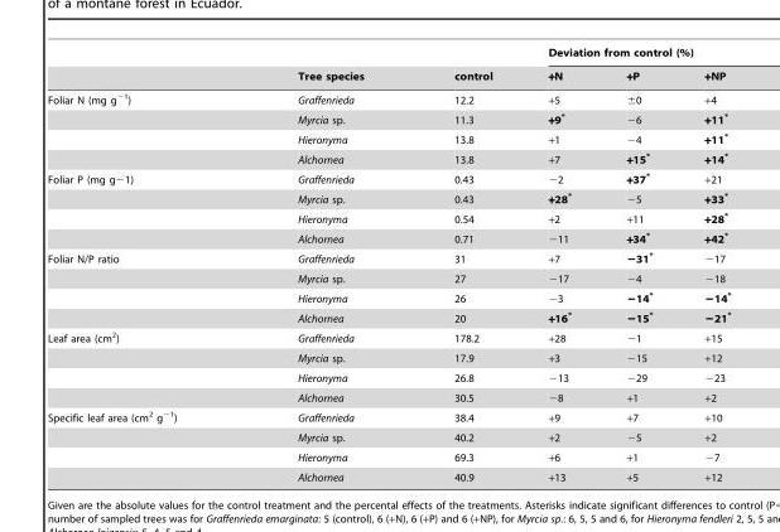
<table><thead><tr><td rowspan="2"></td><td rowspan="2">Tree species</td><td rowspan="2">control</td><td colspan="3">Deviation from control (%)</td></tr><tr><td>+N</td><td>+P</td><td>+NP</td></tr></thead><tbody><tr><td rowspan="4">Foliar N (mg g<sup>−1</sup>)</td><td>Graffenrieda</td><td>12.2</td><td>+5</td><td>±0</td><td>+4</td></tr><tr><td>Myrcia sp.</td><td>11.3</td><td>+9*</td><td>−6</td><td>+11*</td></tr><tr><td>Hieronyma</td><td>13.8</td><td>+1</td><td>−4</td><td>+11*</td></tr><tr><td>Alchornea</td><td>13.8</td><td>+7</td><td>+15*</td><td>+14*</td></tr><tr><td rowspan="4">Foliar P (mg g−1)</td><td>Graffenrieda</td><td>0.43</td><td>−2</td><td>+37*</td><td>+21</td></tr><tr><td>Myrcia sp.</td><td>0.43</td><td>+28*</td><td>−5</td><td>+33*</td></tr><tr><td>Hieronyma</td><td>0.54</td><td>+2</td><td>+11</td><td>+28*</td></tr><tr><td>Alchornea</td><td>0.71</td><td>−11</td><td>+34*</td><td>+42*</td></tr><tr><td rowspan="4">Foliar N/P ratio</td><td>Graffenrieda</td><td>31</td><td>+7</td><td>−31*</td><td>−17</td></tr><tr><td>Myrcia sp.</td><td>27</td><td>−17</td><td>−4</td><td>−18</td></tr><tr><td>Hieronyma</td><td>26</td><td>−3</td><td>−14*</td><td>−14*</td></tr><tr><td>Alchornea</td><td>20</td><td>+16*</td><td>−15*</td><td>−21*</td></tr><tr><td rowspan="4">Leaf area (cm<sup>2</sup>)</td><td>Graffenrieda</td><td>178.2</td><td>+28</td><td>−1</td><td>+15</td></tr><tr><td>Myrcia sp.</td><td>17.9</td><td>+3</td><td>−15</td><td>+12</td></tr><tr><td>Hieronyma</td><td>26.8</td><td>−13</td><td>−29</td><td>−23</td></tr><tr><td>Alchornea</td><td>30.5</td><td>−8</td><td>+1</td><td>+2</td></tr><tr><td rowspan="4">Specific leaf area (cm<sup>2</sup> g<sup>−1</sup>)</td><td>Graffenrieda</td><td>38.4</td><td>+9</td><td>+7</td><td>+10</td></tr><tr><td>Myrcia sp.</td><td>40.2</td><td>+2</td><td>−5</td><td>+2</td></tr><tr><td>Hieronyma</td><td>69.3</td><td>+6</td><td>+1</td><td>−7</td></tr><tr><td>Alchornea</td><td>40.9</td><td>+13</td><td>+5</td><td>+12</td></tr></tbody></table>